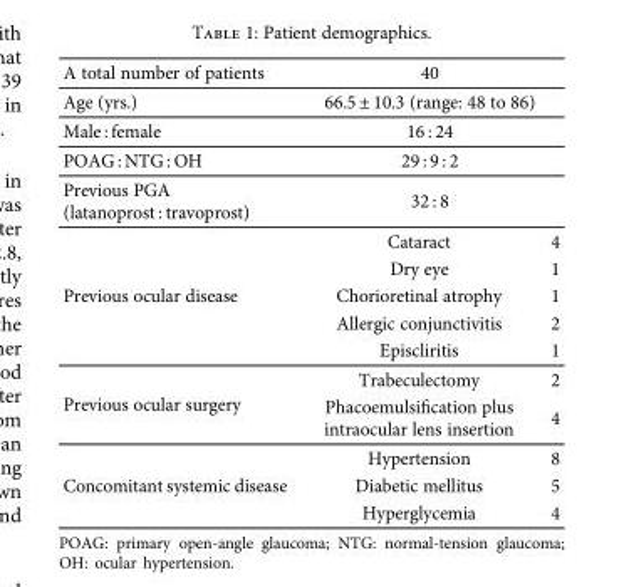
<table><tbody><tr><td>A total number of patients</td><td colspan="2">40</td></tr><tr><td>Age (yrs.)</td><td colspan="2">66.5 ± 10.3 (range: 48 to 86)</td></tr><tr><td>Male : female</td><td colspan="2">16 : 24</td></tr><tr><td>POAG : NTG : OH</td><td colspan="2">29 : 9 : 2</td></tr><tr><td>Previous PGA (latanoprost : travoprost)</td><td colspan="2">32 : 8</td></tr><tr><td rowspan="5">Previous ocular disease</td><td>Cataract</td><td>4</td></tr><tr><td>Dry eye</td><td>1</td></tr><tr><td>Chorioretinal atrophy</td><td>1</td></tr><tr><td>Allergic conjunctivitis</td><td>2</td></tr><tr><td>Episcliritis</td><td>1</td></tr><tr><td rowspan="2">Previous ocular surgery</td><td>Trabeculectomy</td><td>2</td></tr><tr><td>Phacoemulsification plus intraocular lens insertion</td><td>4</td></tr><tr><td rowspan="3">Concomitant systemic disease</td><td>Hypertension</td><td>8</td></tr><tr><td>Diabetic mellitus</td><td>5</td></tr><tr><td>Hyperglycemia</td><td>4</td></tr></tbody></table>